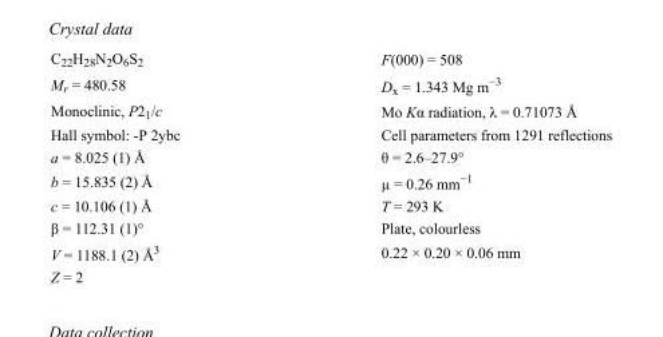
<table><tbody><tr><td>C<sub>22</sub>H<sub>28</sub>N<sub>2</sub>O<sub>6</sub>S<sub>2</sub></td><td>F(000) = 508</td></tr><tr><td>M<sub>r</sub> = 480.58</td><td>D<sub>x</sub> = 1.343 Mg m<sup>−3</sup></td></tr><tr><td>Monoclinic, P2<sub>1</sub>/c</td><td>Mo Kα radiation, λ = 0.71073 Å</td></tr><tr><td>Hall symbol: -P 2ybc</td><td>Cell parameters from 1291 reflections</td></tr><tr><td>a = 8.025 (1) Å</td><td>θ = 2.6–27.9°</td></tr><tr><td>b = 15.835 (2) Å</td><td>µ = 0.26 mm<sup>−1</sup></td></tr><tr><td>c = 10.106 (1) Å</td><td>T = 293 K</td></tr><tr><td>β = 112.31 (1)°</td><td>Plate, colourless</td></tr><tr><td>V = 1188.1 (2) Å<sup>3</sup></td><td>0.22 × 0.20 × 0.06 mm</td></tr><tr><td>Z = 2</td><td></td></tr></tbody></table>